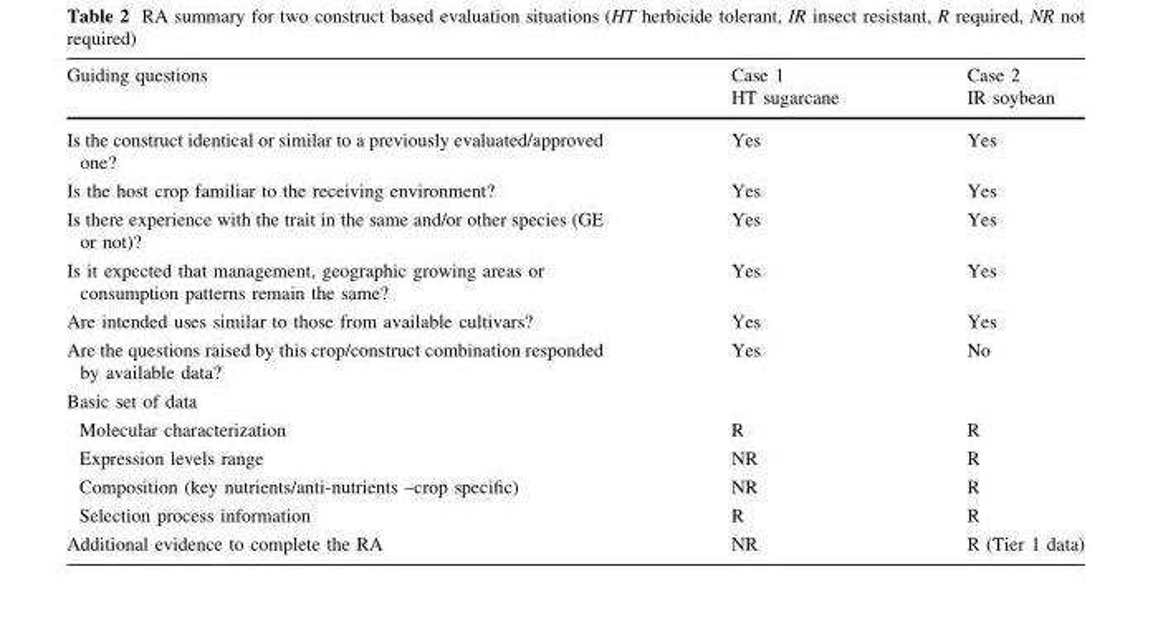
<table><thead><tr><td>Guiding questions</td><td>Case 1 HT sugarcane</td><td>Case 2 IR soybean</td></tr></thead><tbody><tr><td>Is the construct identical or similar to a previously evaluated/approved one?</td><td>Yes</td><td>Yes</td></tr><tr><td>Is the host crop familiar to the receiving environment?</td><td>Yes</td><td>Yes</td></tr><tr><td>Is there experience with the trait in the same and/or other species (GE or not)?</td><td>Yes</td><td>Yes</td></tr><tr><td>Is it expected that management, geographic growing areas or consumption patterns remain the same?</td><td>Yes</td><td>Yes</td></tr><tr><td>Are intended uses similar to those from available cultivars?</td><td>Yes</td><td>Yes</td></tr><tr><td>Are the questions raised by this crop/construct combination responded by available data?</td><td>Yes</td><td>No</td></tr><tr><td colspan="3">Basic set of data</td></tr><tr><td>Molecular characterization</td><td>R</td><td>R</td></tr><tr><td>Expression levels range</td><td>NR</td><td>R</td></tr><tr><td>Composition (key nutrients/anti-nutrients –crop specific)</td><td>NR</td><td>R</td></tr><tr><td>Selection process information</td><td>R</td><td>R</td></tr><tr><td>Additional evidence to complete the RA</td><td>NR</td><td>R (Tier 1 data)</td></tr></tbody></table>